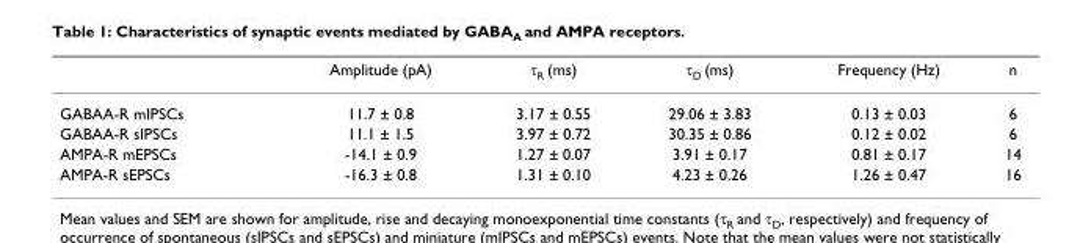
<table><thead><tr><td></td><td>Amplitude (pA)</td><td>τ<sub>R</sub> (ms)</td><td>τ<sub>D</sub> (ms)</td><td>Frequency (Hz)</td><td>n</td></tr></thead><tbody><tr><td>GABAA-R mIPSCs</td><td>11.7 ± 0.8</td><td>3.17 ± 0.55</td><td>29.06 ± 3.83</td><td>0.13 ± 0.03</td><td>6</td></tr><tr><td>GABAA-R sIPSCs</td><td>11.1 ± 1.5</td><td>3.97 ± 0.72</td><td>30.35 ± 0.86</td><td>0.12 ± 0.02</td><td>6</td></tr><tr><td>AMPA-R mEPSCs</td><td>-14.1 ± 0.9</td><td>1.27 ± 0.07</td><td>3.91 ± 0.17</td><td>0.81 ± 0.17</td><td>14</td></tr><tr><td>AMPA-R sEPSCs</td><td>-16.3 ± 0.8</td><td>1.31 ± 0.10</td><td>4.23 ± 0.26</td><td>1.26 ± 0.47</td><td>16</td></tr></tbody></table>